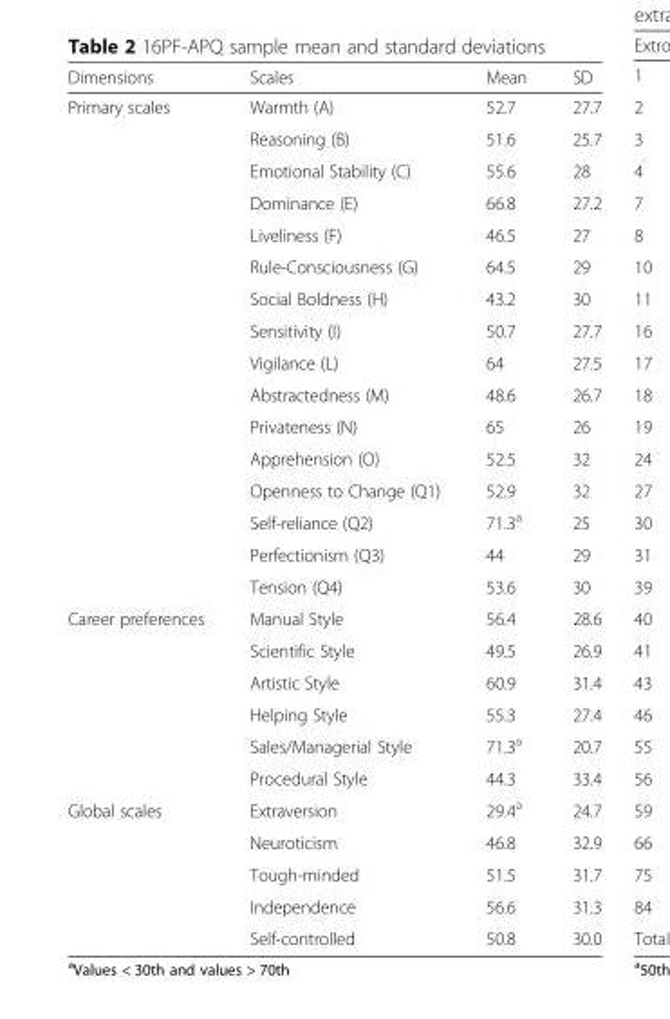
<table><thead><tr><td>Dimensions</td><td>Scales</td><td>Mean</td><td>SD</td></tr></thead><tbody><tr><td rowspan="16">Primary scales</td><td>Warmth (A)</td><td>52.7</td><td>27.7</td></tr><tr><td>Reasoning (B)</td><td>51.6</td><td>25.7</td></tr><tr><td>Emotional Stability (C)</td><td>55.6</td><td>28</td></tr><tr><td>Dominance (E)</td><td>66.8</td><td>27.2</td></tr><tr><td>Liveliness (F)</td><td>46.5</td><td>27</td></tr><tr><td>Rule-Consciousness (G)</td><td>64.5</td><td>29</td></tr><tr><td>Social Boldness (H)</td><td>43.2</td><td>30</td></tr><tr><td>Sensitivity (I)</td><td>50.7</td><td>27.7</td></tr><tr><td>Vigilance (L)</td><td>64</td><td>27.5</td></tr><tr><td>Abstractedness (M)</td><td>48.6</td><td>26.7</td></tr><tr><td>Privateness (N)</td><td>65</td><td>26</td></tr><tr><td>Apprehension (O)</td><td>52.5</td><td>32</td></tr><tr><td>Openness to Change (Q1)</td><td>52.9</td><td>32</td></tr><tr><td>Self-reliance (Q2)</td><td>71.3<sup>a</sup></td><td>25</td></tr><tr><td>Perfectionism (Q3)</td><td>44</td><td>29</td></tr><tr><td>Tension (Q4)</td><td>53.6</td><td>30</td></tr><tr><td rowspan="6">Career preferences</td><td>Manual Style</td><td>56.4</td><td>28.6</td></tr><tr><td>Scientific Style</td><td>49.5</td><td>26.9</td></tr><tr><td>Artistic Style</td><td>60.9</td><td>31.4</td></tr><tr><td>Helping Style</td><td>55.3</td><td>27.4</td></tr><tr><td>Sales/Managerial Style</td><td>71.3<sup>a</sup></td><td>20.7</td></tr><tr><td>Procedural Style</td><td>44.3</td><td>33.4</td></tr><tr><td rowspan="5">Global scales</td><td>Extraversion</td><td>29.4<sup>a</sup></td><td>24.7</td></tr><tr><td>Neuroticism</td><td>46.8</td><td>32.9</td></tr><tr><td>Tough-minded</td><td>51.5</td><td>31.7</td></tr><tr><td>Independence</td><td>56.6</td><td>31.3</td></tr><tr><td>Self-controlled</td><td>50.8</td><td>30.0</td></tr></tbody></table>